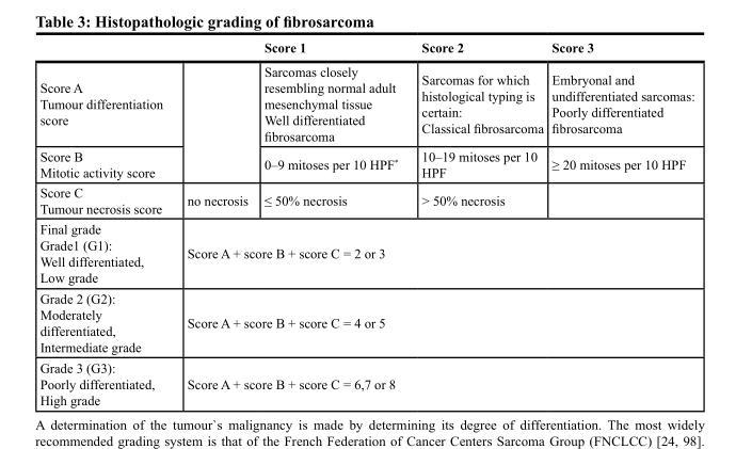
<table><thead><tr><td></td><td></td><td>Score 1</td><td>Score 2</td><td>Score 3</td></tr></thead><tbody><tr><td>Score A Tumour differentiation score</td><td rowspan="2"></td><td>Sarcomas closely resembling normal adult mesenchymal tissue Well differentiated fibrosarcoma</td><td>Sarcomas for which histological typing is certain: Classical fibrosarcoma</td><td>Embryonal and undifferentiated sarcomas: Poorly differentiated fibrosarcoma</td></tr><tr><td>Score B Mitotic activity score</td><td>0–9 mitoses per 10 HPF*</td><td>10–19 mitoses per 10 HPF</td><td>≥ 20 mitoses per 10 HPF</td></tr><tr><td>Score C Tumour necrosis score</td><td>no necrosis</td><td>≤ 50% necrosis</td><td>&gt; 50% necrosis</td><td></td></tr><tr><td>Final grade Grade1 (G1): Well differentiated, Low grade</td><td colspan="4">Score A + score B + score C = 2 or 3</td></tr><tr><td>Grade 2 (G2): Moderately differentiated, Intermediate grade</td><td colspan="4">Score A + score B + score C = 4 or 5</td></tr><tr><td>Grade 3 (G3): Poorly differentiated, High grade</td><td colspan="4">Score A + score B + score C = 6,7 or 8</td></tr></tbody></table>